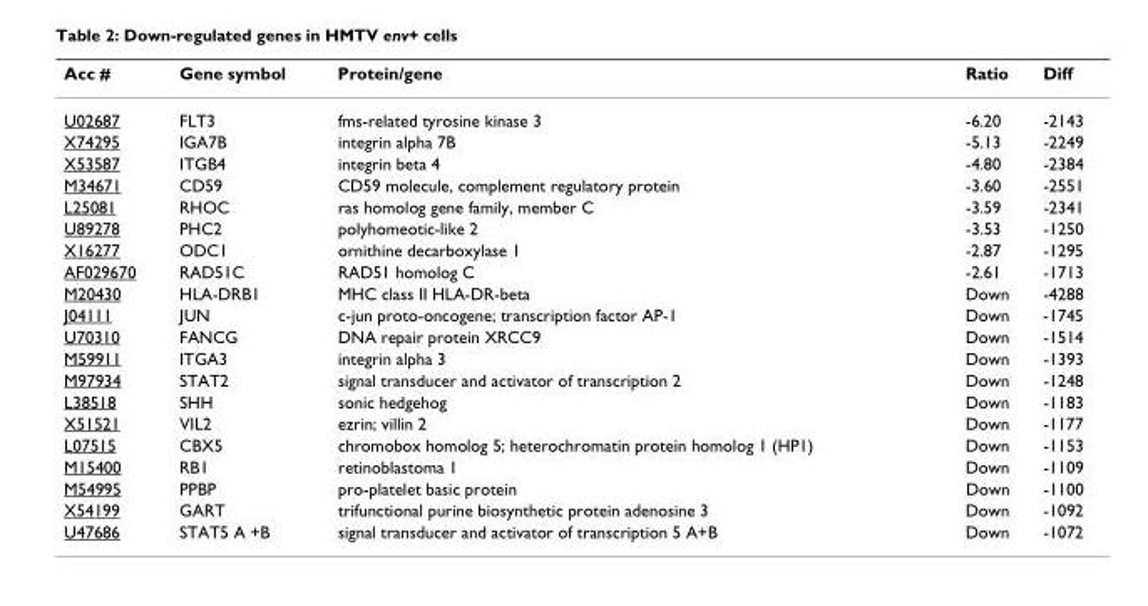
<table><thead><tr><td>Acc #</td><td>Gene symbol</td><td>Protein/gene</td><td>Ratio</td><td>Diff</td></tr></thead><tbody><tr><td>U02687</td><td>FLT3</td><td>fms-related tyrosine kinase 3</td><td>-6.20</td><td>-2143</td></tr><tr><td>X74295</td><td>IGA7B</td><td>integrin alpha 7B</td><td>-5.13</td><td>-2249</td></tr><tr><td>X53587</td><td>ITGB4</td><td>integrin beta 4</td><td>-4.80</td><td>-2384</td></tr><tr><td>M34671</td><td>CD59</td><td>CD59 molecule, complement regulatory protein</td><td>-3.60</td><td>-2551</td></tr><tr><td>L25081</td><td>RHOC</td><td>ras homolog gene family, member C</td><td>-3.59</td><td>-2341</td></tr><tr><td>U89278</td><td>PHC2</td><td>polyhomeotic-like 2</td><td>-3.53</td><td>-1250</td></tr><tr><td>X16277</td><td>ODC1</td><td>ornithine decarboxylase 1</td><td>-2.87</td><td>-1295</td></tr><tr><td>AF029670</td><td>RAD51C</td><td>RAD51 homolog C</td><td>-2.61</td><td>-1713</td></tr><tr><td>M20430</td><td>HLA-DRB1</td><td>MHC class II HLA-DR-beta</td><td>Down</td><td>-4288</td></tr><tr><td>J04111</td><td>JUN</td><td>c-jun proto-oncogene; transcription factor AP-1</td><td>Down</td><td>-1745</td></tr><tr><td>U70310</td><td>FANCG</td><td>DNA repair protein XRCC9</td><td>Down</td><td>-1514</td></tr><tr><td>M59911</td><td>ITGA3</td><td>integrin alpha 3</td><td>Down</td><td>-1393</td></tr><tr><td>M97934</td><td>STAT2</td><td>signal transducer and activator of transcription 2</td><td>Down</td><td>-1248</td></tr><tr><td>L38518</td><td>SHH</td><td>sonic hedgehog</td><td>Down</td><td>-1183</td></tr><tr><td>X51521</td><td>VIL2</td><td>ezrin; villin 2</td><td>Down</td><td>-1177</td></tr><tr><td>L07515</td><td>CBX5</td><td>chromobox homolog 5; heterochromatin protein homolog 1 (HP1)</td><td>Down</td><td>-1153</td></tr><tr><td>M15400</td><td>RB1</td><td>retinoblastoma 1</td><td>Down</td><td>-1109</td></tr><tr><td>M54995</td><td>PPBP</td><td>pro-platelet basic protein</td><td>Down</td><td>-1100</td></tr><tr><td>X54199</td><td>GART</td><td>trifunctional purine biosynthetic protein adenosine 3</td><td>Down</td><td>-1092</td></tr><tr><td>U47686</td><td>STAT5 A +B</td><td>signal transducer and activator of transcription 5 A+B</td><td>Down</td><td>-1072</td></tr></tbody></table>